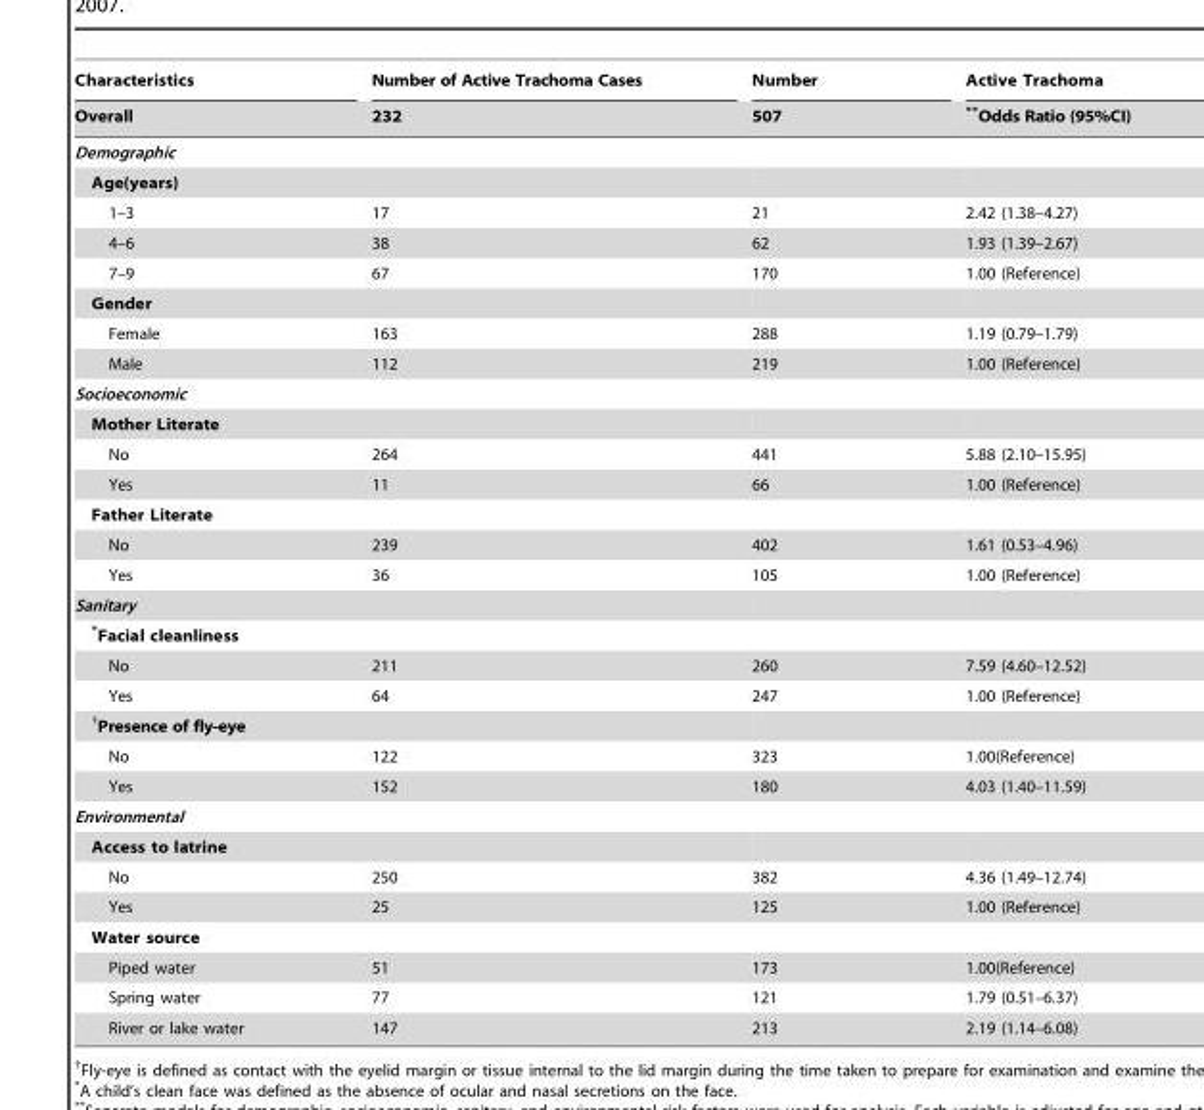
<table><thead><tr><td rowspan="2">Characteristics Overall</td><td rowspan="2">Number of Active Trachoma Cases 232</td><td rowspan="2">Number 507</td><td rowspan="2">Active Trachoma **Odds Ratio (95%CI)</td></tr><tr></tr></thead><tbody><tr><td colspan="4">Demographic</td></tr><tr><td colspan="4">Age(years)</td></tr><tr><td>1–3</td><td>17</td><td>21</td><td>2.42 (1.38–4.27)</td></tr><tr><td>4–6</td><td>38</td><td>62</td><td>1.93 (1.39–2.67)</td></tr><tr><td>7–9</td><td>67</td><td>170</td><td>1.00 (Reference)</td></tr><tr><td colspan="4">Gender</td></tr><tr><td>Female</td><td>163</td><td>288</td><td>1.19 (0.79–1.79)</td></tr><tr><td>Male</td><td>112</td><td>219</td><td>1.00 (Reference)</td></tr><tr><td colspan="4">Socioeconomic</td></tr><tr><td colspan="4">Mother Literate</td></tr><tr><td>No</td><td>264</td><td>441</td><td>5.88 (2.10–15.95)</td></tr><tr><td>Yes</td><td>11</td><td>66</td><td>1.00 (Reference)</td></tr><tr><td colspan="4">Father Literate</td></tr><tr><td>No</td><td>239</td><td>402</td><td>1.61 (0.53–4.96)</td></tr><tr><td>Yes</td><td>36</td><td>105</td><td>1.00 (Reference)</td></tr><tr><td colspan="4">Sanitary</td></tr><tr><td colspan="4">*Facial cleanliness</td></tr><tr><td>No</td><td>211</td><td>260</td><td>7.59 (4.60–12.52)</td></tr><tr><td>Yes</td><td>64</td><td>247</td><td>1.00 (Reference)</td></tr><tr><td colspan="4">†Presence of fly-eye</td></tr><tr><td>No</td><td>122</td><td>323</td><td>1.00(Reference)</td></tr><tr><td>Yes</td><td>152</td><td>180</td><td>4.03 (1.40–11.59)</td></tr><tr><td colspan="4">Environmental</td></tr><tr><td colspan="4">Access to latrine</td></tr><tr><td>No</td><td>250</td><td>382</td><td>4.36 (1.49–12.74)</td></tr><tr><td>Yes</td><td>25</td><td>125</td><td>1.00 (Reference)</td></tr><tr><td colspan="4">Water source</td></tr><tr><td>Piped water</td><td>51</td><td>173</td><td>1.00(Reference)</td></tr><tr><td>Spring water</td><td>77</td><td>121</td><td>1.79 (0.51–6.37)</td></tr><tr><td>River or lake water</td><td>147</td><td>213</td><td>2.19 (1.14–6.08)</td></tr></tbody></table>